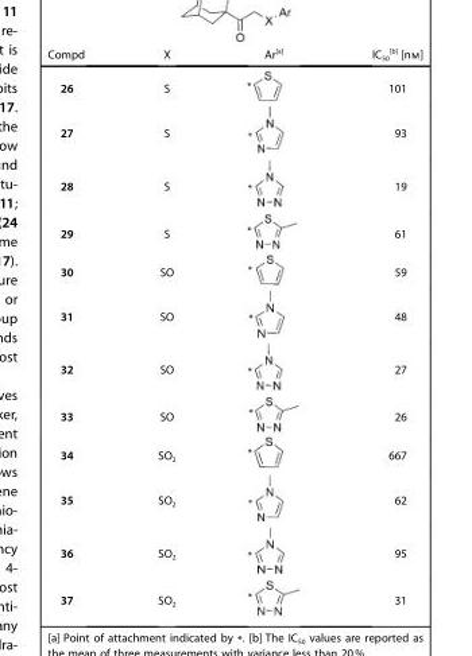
<table><thead><tr><td>Compd</td><td>X</td><td>Ar[a]</td><td>IC<sub>50</sub> [b] [nm]</td></tr></thead><tbody><tr><td>26</td><td>S</td><td></td><td>101</td></tr><tr><td>27</td><td>S</td><td></td><td>93</td></tr><tr><td>28</td><td>S</td><td></td><td>19</td></tr><tr><td>29</td><td>S</td><td></td><td>61</td></tr><tr><td>30</td><td>SO</td><td></td><td>59</td></tr><tr><td>31</td><td>SO</td><td></td><td>48</td></tr><tr><td>32</td><td>SO</td><td></td><td>27</td></tr><tr><td>33</td><td>SO</td><td></td><td>26</td></tr><tr><td>34</td><td>SO<sub>2</sub></td><td></td><td>667</td></tr><tr><td>35</td><td>SO<sub>2</sub></td><td></td><td>62</td></tr><tr><td>36</td><td>SO<sub>2</sub></td><td></td><td>95</td></tr><tr><td>37</td><td>SO<sub>2</sub></td><td></td><td>31</td></tr></tbody></table>